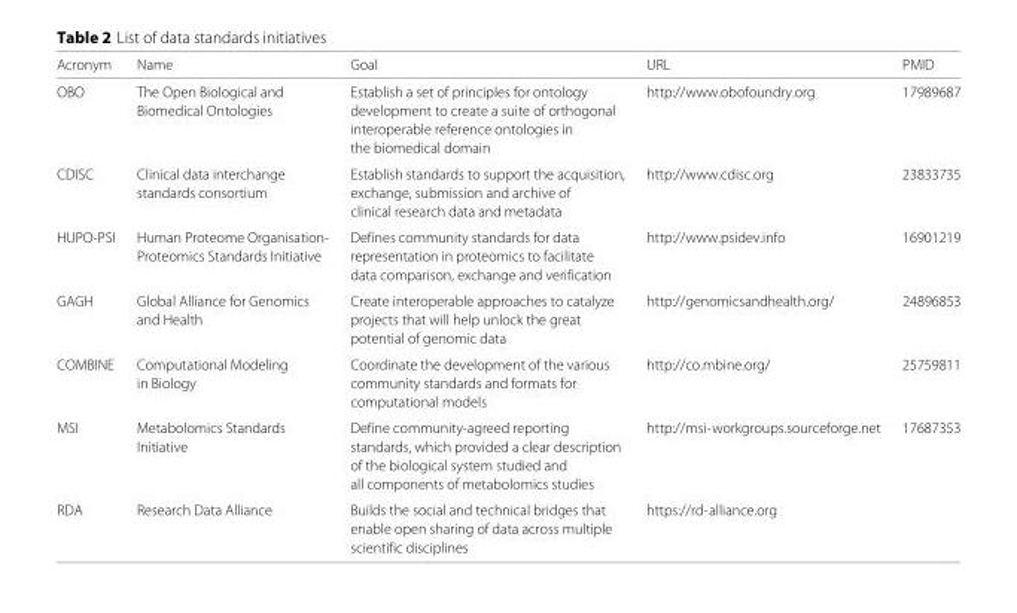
<table><thead><tr><td>Acronym</td><td>Name</td><td>Goal</td><td>URL</td><td>PMID</td></tr></thead><tbody><tr><td rowspan="4">OBO</td><td>The Open Biological and</td><td>Establish a set of principles for ontology</td><td>http://www.obofoundry.org</td><td>17989687</td></tr><tr><td>Biomedical Ontologies</td><td>development to create a suite of orthogonal</td><td></td><td></td></tr><tr><td></td><td>interoperable reference ontologies in</td><td></td><td></td></tr><tr><td></td><td>the biomedical domain</td><td></td><td></td></tr><tr><td rowspan="3">CDISC</td><td>Clinical data interchange</td><td>Establish standards to support the acquisition,</td><td>http://www.cdisc.org</td><td>23833735</td></tr><tr><td>standards consortium</td><td>exchange, submission and archive of</td><td></td><td></td></tr><tr><td></td><td>clinical research data and metadata</td><td></td><td></td></tr><tr><td rowspan="3">HUPO-PSI</td><td>Human Proteome Organisation-</td><td>Defines community standards for data</td><td>http://www.psidev.info</td><td>16901219</td></tr><tr><td>Proteomics Standards Initiative</td><td>representation in proteomics to facilitate</td><td></td><td></td></tr><tr><td></td><td>data comparison, exchange and verification</td><td></td><td></td></tr><tr><td rowspan="3">GAGH</td><td>Global Alliance for Genomics</td><td>Create interoperable approaches to catalyze</td><td>http://genomicsandhealth.org/</td><td>24896853</td></tr><tr><td>and Health</td><td>projects that will help unlock the great</td><td></td><td></td></tr><tr><td></td><td>potential of genomic data</td><td></td><td></td></tr><tr><td rowspan="3">COMBINE</td><td>Computational Modeling</td><td>Coordinate the development of the various</td><td>http://co.mbine.org/</td><td>25759811</td></tr><tr><td>in Biology</td><td>community standards and formats for</td><td></td><td></td></tr><tr><td></td><td>computational models</td><td></td><td></td></tr><tr><td rowspan="4">MSI</td><td>Metabolomics Standards</td><td>Define community-agreed reporting</td><td>http://msi-workgroups.sourceforge.net</td><td>17687353</td></tr><tr><td>Initiative</td><td>standards, which provided a clear description</td><td></td><td></td></tr><tr><td></td><td>of the biological system studied and</td><td></td><td></td></tr><tr><td></td><td>all components of metabolomics studies</td><td></td><td></td></tr><tr><td rowspan="3">RDA</td><td>Research Data Alliance</td><td>Builds the social and technical bridges that</td><td>https://rd-alliance.org</td><td></td></tr><tr><td></td><td>enable open sharing of data across multiple</td><td></td><td></td></tr><tr><td></td><td>scientific disciplines</td><td></td><td></td></tr></tbody></table>